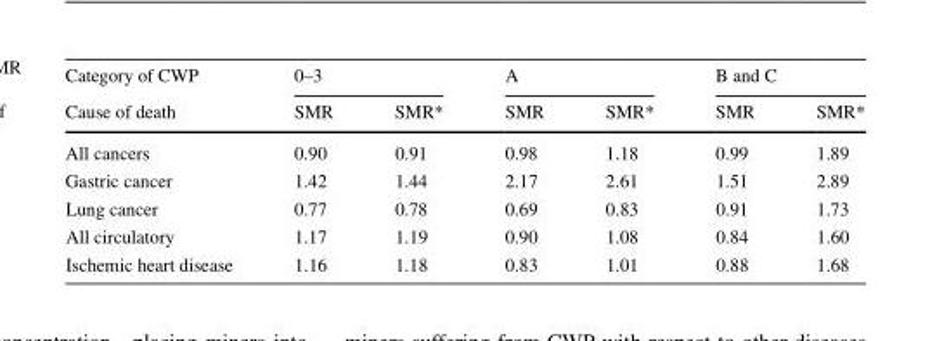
<table><thead><tr><td rowspan="2">Category of CWP Cause of death</td><td colspan="2">0–3</td><td colspan="2">A</td><td colspan="2">B and C</td></tr><tr><td>SMR</td><td>SMR*</td><td>SMR</td><td>SMR*</td><td>SMR</td><td>SMR*</td></tr></thead><tbody><tr><td>All cancers</td><td>0.90</td><td>0.91</td><td>0.98</td><td>1.18</td><td>0.99</td><td>1.89</td></tr><tr><td>Gastric cancer</td><td>1.42</td><td>1.44</td><td>2.17</td><td>2.61</td><td>1.51</td><td>2.89</td></tr><tr><td>Lung cancer</td><td>0.77</td><td>0.78</td><td>0.69</td><td>0.83</td><td>0.91</td><td>1.73</td></tr><tr><td>All circulatory</td><td>1.17</td><td>1.19</td><td>0.90</td><td>1.08</td><td>0.84</td><td>1.60</td></tr><tr><td>Ischemic heart disease</td><td>1.16</td><td>1.18</td><td>0.83</td><td>1.01</td><td>0.88</td><td>1.68</td></tr></tbody></table>